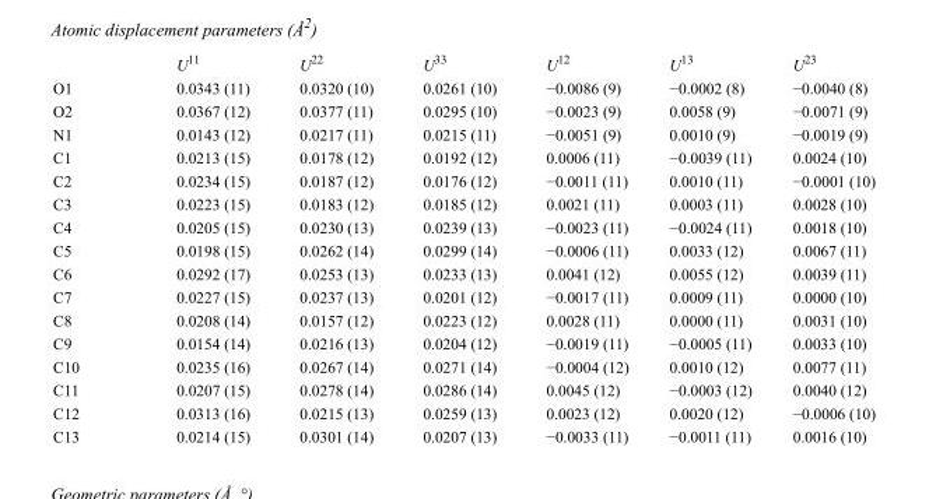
<table><thead><tr><td></td><td>U<sup>11</sup></td><td>U<sup>22</sup></td><td>U<sup>33</sup></td><td>U<sup>12</sup></td><td>U<sup>13</sup></td><td>U<sup>23</sup></td></tr></thead><tbody><tr><td>O1</td><td>0.0343 (11)</td><td>0.0320 (10)</td><td>0.0261 (10)</td><td>−0.0086 (9)</td><td>−0.0002 (8)</td><td>−0.0040 (8)</td></tr><tr><td>O2</td><td>0.0367 (12)</td><td>0.0377 (11)</td><td>0.0295 (10)</td><td>−0.0023 (9)</td><td>0.0058 (9)</td><td>−0.0071 (9)</td></tr><tr><td>N1</td><td>0.0143 (12)</td><td>0.0217 (11)</td><td>0.0215 (11)</td><td>−0.0051 (9)</td><td>0.0010 (9)</td><td>−0.0019 (9)</td></tr><tr><td>C1</td><td>0.0213 (15)</td><td>0.0178 (12)</td><td>0.0192 (12)</td><td>0.0006 (11)</td><td>−0.0039 (11)</td><td>0.0024 (10)</td></tr><tr><td>C2</td><td>0.0234 (15)</td><td>0.0187 (12)</td><td>0.0176 (12)</td><td>−0.0011 (11)</td><td>0.0010 (11)</td><td>−0.0001 (10)</td></tr><tr><td>C3</td><td>0.0223 (15)</td><td>0.0183 (12)</td><td>0.0185 (12)</td><td>0.0021 (11)</td><td>0.0003 (11)</td><td>0.0028 (10)</td></tr><tr><td>C4</td><td>0.0205 (15)</td><td>0.0230 (13)</td><td>0.0239 (13)</td><td>−0.0023 (11)</td><td>−0.0024 (11)</td><td>0.0018 (10)</td></tr><tr><td>C5</td><td>0.0198 (15)</td><td>0.0262 (14)</td><td>0.0299 (14)</td><td>−0.0006 (11)</td><td>0.0033 (12)</td><td>0.0067 (11)</td></tr><tr><td>C6</td><td>0.0292 (17)</td><td>0.0253 (13)</td><td>0.0233 (13)</td><td>0.0041 (12)</td><td>0.0055 (12)</td><td>0.0039 (11)</td></tr><tr><td>C7</td><td>0.0227 (15)</td><td>0.0237 (13)</td><td>0.0201 (12)</td><td>−0.0017 (11)</td><td>0.0009 (11)</td><td>0.0000 (10)</td></tr><tr><td>C8</td><td>0.0208 (14)</td><td>0.0157 (12)</td><td>0.0223 (12)</td><td>0.0028 (11)</td><td>0.0000 (11)</td><td>0.0031 (10)</td></tr><tr><td>C9</td><td>0.0154 (14)</td><td>0.0216 (13)</td><td>0.0204 (12)</td><td>−0.0019 (11)</td><td>−0.0005 (11)</td><td>0.0033 (10)</td></tr><tr><td>C10</td><td>0.0235 (16)</td><td>0.0267 (14)</td><td>0.0271 (14)</td><td>−0.0004 (12)</td><td>0.0010 (12)</td><td>0.0077 (11)</td></tr><tr><td>C11</td><td>0.0207 (15)</td><td>0.0278 (14)</td><td>0.0286 (14)</td><td>0.0045 (12)</td><td>−0.0003 (12)</td><td>0.0040 (12)</td></tr><tr><td>C12</td><td>0.0313 (16)</td><td>0.0215 (13)</td><td>0.0259 (13)</td><td>0.0023 (12)</td><td>0.0020 (12)</td><td>−0.0006 (10)</td></tr><tr><td>C13</td><td>0.0214 (15)</td><td>0.0301 (14)</td><td>0.0207 (13)</td><td>−0.0033 (11)</td><td>−0.0011 (11)</td><td>0.0016 (10)</td></tr></tbody></table>